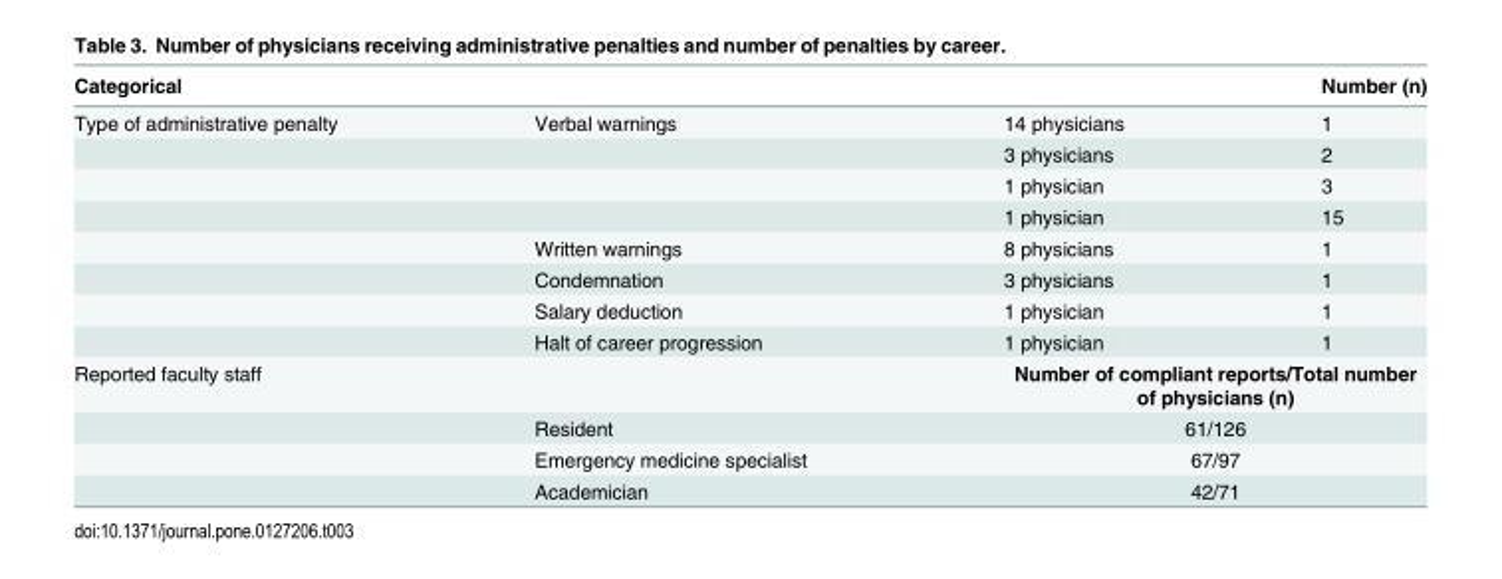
<table><thead><tr><td>Categorical</td><td></td><td></td><td>Number (n)</td></tr></thead><tbody><tr><td rowspan="8">Type of administrative penalty</td><td>Verbal warnings</td><td>14 physicians</td><td>1</td></tr><tr><td></td><td>3 physicians</td><td>2</td></tr><tr><td></td><td>1 physician</td><td>3</td></tr><tr><td></td><td>1 physician</td><td>15</td></tr><tr><td>Written warnings</td><td>8 physicians</td><td>1</td></tr><tr><td>Condemnation</td><td>3 physicians</td><td>1</td></tr><tr><td>Salary deduction</td><td>1 physician</td><td>1</td></tr><tr><td>Halt of career progression</td><td>1 physician</td><td>1</td></tr><tr><td rowspan="4">Reported faculty staff</td><td></td><td colspan="2">Number of compliant reports/Total number of physicians (n)</td></tr><tr><td>Resident</td><td colspan="2">61/126</td></tr><tr><td>Emergency medicine specialist</td><td colspan="2">67/97</td></tr><tr><td>Academician</td><td colspan="2">42/71</td></tr></tbody></table>